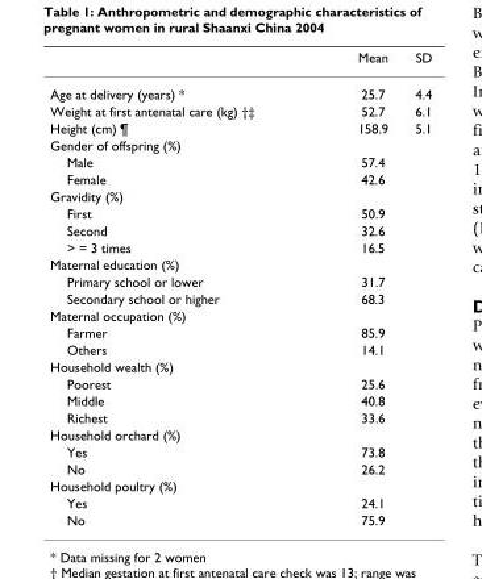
<table><thead><tr><td></td><td>Mean</td><td>SD</td></tr></thead><tbody><tr><td>Age at delivery (years) *</td><td>25.7</td><td>4.4</td></tr><tr><td>Weight at first antenatal care (kg) †‡</td><td>52.7</td><td>6.1</td></tr><tr><td>Height (cm) ¶</td><td>158.9</td><td>5.1</td></tr><tr><td colspan="3">Gender of offspring (%)</td></tr><tr><td>Male</td><td>57.4</td><td></td></tr><tr><td>Female</td><td>42.6</td><td></td></tr><tr><td colspan="3">Gravidity (%)</td></tr><tr><td>First</td><td>50.9</td><td></td></tr><tr><td>Second</td><td>32.6</td><td></td></tr><tr><td>&gt; = 3 times</td><td>16.5</td><td></td></tr><tr><td colspan="3">Maternal education (%)</td></tr><tr><td>Primary school or lower</td><td>31.7</td><td></td></tr><tr><td>Secondary school or higher</td><td>68.3</td><td></td></tr><tr><td colspan="3">Maternal occupation (%)</td></tr><tr><td>Farmer</td><td>85.9</td><td></td></tr><tr><td>Others</td><td>14.1</td><td></td></tr><tr><td colspan="3">Household wealth (%)</td></tr><tr><td>Poorest</td><td>25.6</td><td></td></tr><tr><td>Middle</td><td>40.8</td><td></td></tr><tr><td>Richest</td><td>33.6</td><td></td></tr><tr><td colspan="3">Household orchard (%)</td></tr><tr><td>Yes</td><td>73.8</td><td></td></tr><tr><td>No</td><td>26.2</td><td></td></tr><tr><td colspan="3">Household poultry (%)</td></tr><tr><td>Yes</td><td>24.1</td><td></td></tr><tr><td>No</td><td>75.9</td><td></td></tr></tbody></table>